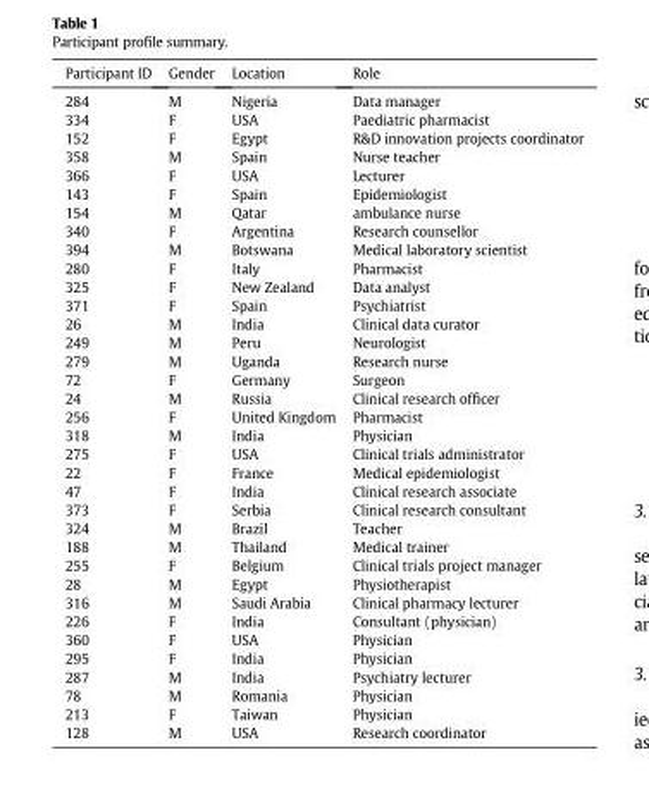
<table><thead><tr><td>Participant ID</td><td>Gender</td><td>Location</td><td>Role</td></tr></thead><tbody><tr><td>284</td><td>M</td><td>Nigeria</td><td>Data manager</td></tr><tr><td>334</td><td>F</td><td>USA</td><td>Paediatric pharmacist</td></tr><tr><td>152</td><td>F</td><td>Egypt</td><td>R&amp;D innovation projects coordinator</td></tr><tr><td>358</td><td>M</td><td>Spain</td><td>Nurse teacher</td></tr><tr><td>366</td><td>F</td><td>USA</td><td>Lecturer</td></tr><tr><td>143</td><td>F</td><td>Spain</td><td>Epidemiologist</td></tr><tr><td>154</td><td>M</td><td>Qatar</td><td>ambulance nurse</td></tr><tr><td>340</td><td>F</td><td>Argentina</td><td>Research counsellor</td></tr><tr><td>394</td><td>M</td><td>Botswana</td><td>Medical laboratory scientist</td></tr><tr><td>280</td><td>F</td><td>Italy</td><td>Pharmacist</td></tr><tr><td>325</td><td>F</td><td>New Zealand</td><td>Data analyst</td></tr><tr><td>371</td><td>F</td><td>Spain</td><td>Psychiatrist</td></tr><tr><td>26</td><td>M</td><td>India</td><td>Clinical data curator</td></tr><tr><td>249</td><td>M</td><td>Peru</td><td>Neurologist</td></tr><tr><td>279</td><td>M</td><td>Uganda</td><td>Research nurse</td></tr><tr><td>72</td><td>F</td><td>Germany</td><td>Surgeon</td></tr><tr><td>24</td><td>M</td><td>Russia</td><td>Clinical research officer</td></tr><tr><td>256</td><td>F</td><td>United Kingdom</td><td>Pharmacist</td></tr><tr><td>318</td><td>M</td><td>India</td><td>Physician</td></tr><tr><td>275</td><td>F</td><td>USA</td><td>Clinical trials administrator</td></tr><tr><td>22</td><td>F</td><td>France</td><td>Medical epidemiologist</td></tr><tr><td>47</td><td>F</td><td>India</td><td>Clinical research associate</td></tr><tr><td>373</td><td>F</td><td>Serbia</td><td>Clinical research consultant</td></tr><tr><td>324</td><td>M</td><td>Brazil</td><td>Teacher</td></tr><tr><td>188</td><td>M</td><td>Thailand</td><td>Medical trainer</td></tr><tr><td>255</td><td>F</td><td>Belgium</td><td>Clinical trials project manager</td></tr><tr><td>28</td><td>M</td><td>Egypt</td><td>Physiotherapist</td></tr><tr><td>316</td><td>M</td><td>Saudi Arabia</td><td>Clinical pharmacy lecturer</td></tr><tr><td>226</td><td>F</td><td>India</td><td>Consultant (physician)</td></tr><tr><td>360</td><td>F</td><td>USA</td><td>Physician</td></tr><tr><td>295</td><td>F</td><td>India</td><td>Physician</td></tr><tr><td>287</td><td>M</td><td>India</td><td>Psychiatry lecturer</td></tr><tr><td>78</td><td>M</td><td>Romania</td><td>Physician</td></tr><tr><td>213</td><td>F</td><td>Taiwan</td><td>Physician</td></tr><tr><td>128</td><td>M</td><td>USA</td><td>Research coordinator</td></tr></tbody></table>